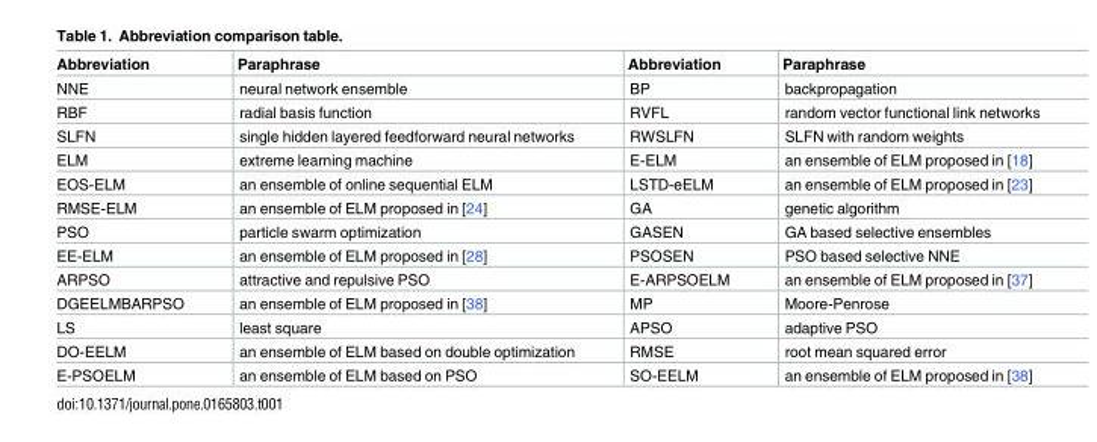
<table><thead><tr><td>Abbreviation</td><td>Paraphrase</td><td>Abbreviation</td><td>Paraphrase</td></tr></thead><tbody><tr><td>NNE</td><td>neural network ensemble</td><td>BP</td><td>backpropagation</td></tr><tr><td>RBF</td><td>radial basis function</td><td>RVFL</td><td>random vector functional link networks</td></tr><tr><td>SLFN</td><td>single hidden layered feedforward neural networks</td><td>RWSLFN</td><td>SLFN with random weights</td></tr><tr><td>ELM</td><td>extreme learning machine</td><td>E-ELM</td><td>an ensemble of ELM proposed in [18]</td></tr><tr><td>EOS-ELM</td><td>an ensemble of online sequential ELM</td><td>LSTD-eELM</td><td>an ensemble of ELM proposed in [23]</td></tr><tr><td>RMSE-ELM</td><td>an ensemble of ELM proposed in [24]</td><td>GA</td><td>genetic algorithm</td></tr><tr><td>PSO</td><td>particle swarm optimization</td><td>GASEN</td><td>GA based selective ensembles</td></tr><tr><td>EE-ELM</td><td>an ensemble of ELM proposed in [28]</td><td>PSOSEN</td><td>PSO based selective NNE</td></tr><tr><td>ARPSO</td><td>attractive and repulsive PSO</td><td>E-ARPSOELM</td><td>an ensemble of ELM proposed in [37]</td></tr><tr><td>DGEELMBARPSO</td><td>an ensemble of ELM proposed in [38]</td><td>MP</td><td>Moore-Penrose</td></tr><tr><td>LS</td><td>least square</td><td>APSO</td><td>adaptive PSO</td></tr><tr><td>DO-EELM</td><td>an ensemble of ELM based on double optimization</td><td>RMSE</td><td>root mean squared error</td></tr><tr><td>E-PSOELM</td><td>an ensemble of ELM based on PSO</td><td>SO-EELM</td><td>an ensemble of ELM proposed in [38]</td></tr></tbody></table>